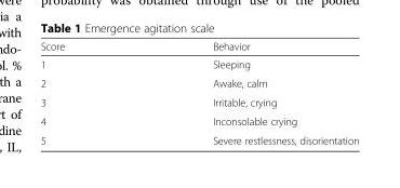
<table><thead><tr><td>Score</td><td>Behavior</td></tr></thead><tbody><tr><td>1</td><td>Sleeping</td></tr><tr><td>2</td><td>Awake, calm</td></tr><tr><td>3</td><td>Irritable, crying</td></tr><tr><td>4</td><td>Inconsolable crying</td></tr><tr><td>5</td><td>Severe restlessness, disorientation</td></tr></tbody></table>